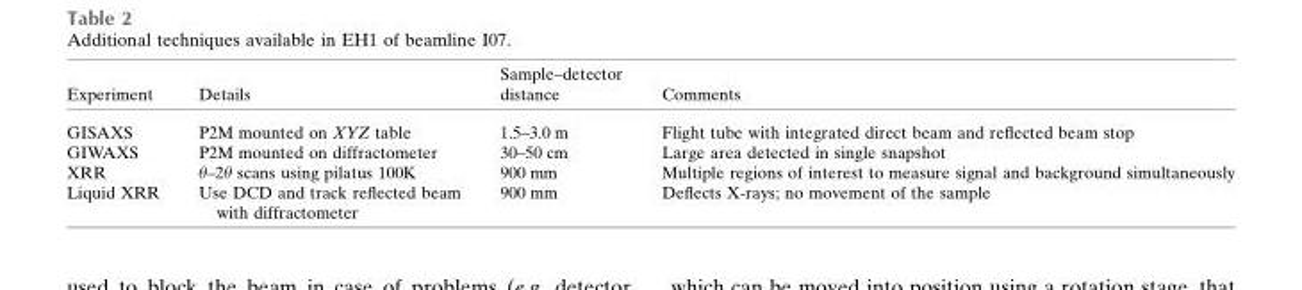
<table><thead><tr><td>Experiment</td><td>Details</td><td>Sample–detector distance</td><td>Comments</td></tr></thead><tbody><tr><td>GISAXS</td><td>P2M mounted on XYZ table</td><td>1.5–3.0 m</td><td>Flight tube with integrated direct beam and reflected beam stop</td></tr><tr><td>GIWAXS</td><td>P2M mounted on diffractometer</td><td>30–50 cm</td><td>Large area detected in single snapshot</td></tr><tr><td>XRR</td><td>θ–2θ scans using pilatus 100K</td><td>900 mm</td><td>Multiple regions of interest to measure signal and background simultaneously</td></tr><tr><td>Liquid XRR</td><td>Use DCD and track reflected beam with diffractometer</td><td>900 mm</td><td>Deflects X-rays; no movement of the sample</td></tr></tbody></table>